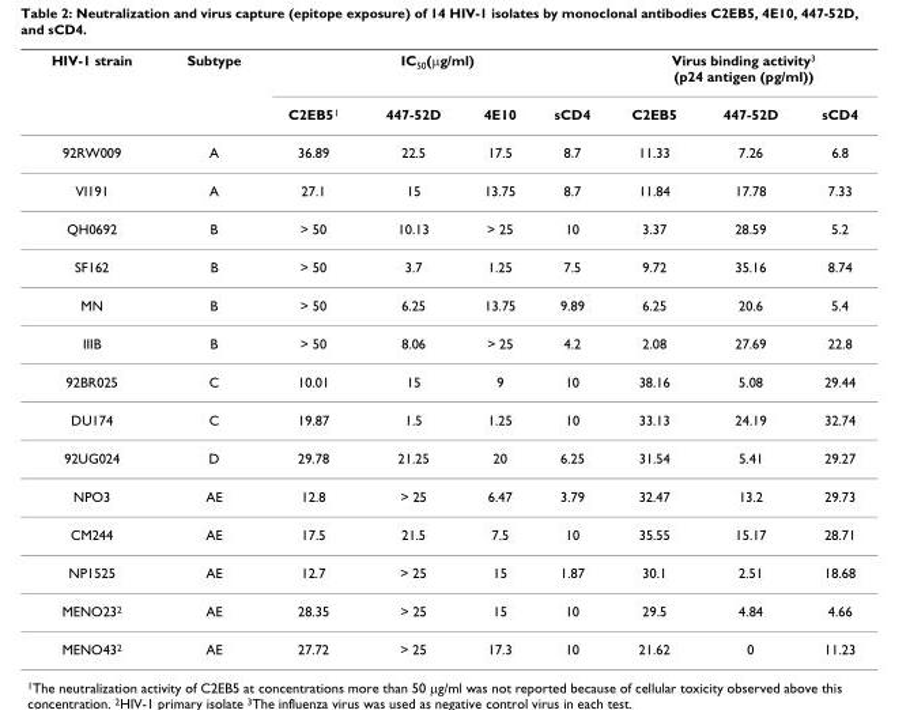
<table><thead><tr><td rowspan="2">HIV-1 strain</td><td rowspan="2">Subtype</td><td colspan="4">IC50(μg/ml)</td><td colspan="3">Virus binding activity3 (p24 antigen (pg/ml))</td></tr><tr><td>C2EB51</td><td>447-52D</td><td>4E10</td><td>sCD4</td><td>C2EB5</td><td>447-52D</td><td>sCD4</td></tr></thead><tbody><tr><td>92RW009</td><td>A</td><td>36.89</td><td>22.5</td><td>17.5</td><td>8.7</td><td>11.33</td><td>7.26</td><td>6.8</td></tr><tr><td>VI191</td><td>A</td><td>27.1</td><td>15</td><td>13.75</td><td>8.7</td><td>11.84</td><td>17.78</td><td>7.33</td></tr><tr><td>QH0692</td><td>B</td><td>&gt; 50</td><td>10.13</td><td>&gt; 25</td><td>10</td><td>3.37</td><td>28.59</td><td>5.2</td></tr><tr><td>SF162</td><td>B</td><td>&gt; 50</td><td>3.7</td><td>1.25</td><td>7.5</td><td>9.72</td><td>35.16</td><td>8.74</td></tr><tr><td>MN</td><td>B</td><td>&gt; 50</td><td>6.25</td><td>13.75</td><td>9.89</td><td>6.25</td><td>20.6</td><td>5.4</td></tr><tr><td>IIIB</td><td>B</td><td>&gt; 50</td><td>8.06</td><td>&gt; 25</td><td>4.2</td><td>2.08</td><td>27.69</td><td>22.8</td></tr><tr><td>92BR025</td><td>C</td><td>10.01</td><td>15</td><td>9</td><td>10</td><td>38.16</td><td>5.08</td><td>29.44</td></tr><tr><td>DU174</td><td>C</td><td>19.87</td><td>1.5</td><td>1.25</td><td>10</td><td>33.13</td><td>24.19</td><td>32.74</td></tr><tr><td>92UG024</td><td>D</td><td>29.78</td><td>21.25</td><td>20</td><td>6.25</td><td>31.54</td><td>5.41</td><td>29.27</td></tr><tr><td>NPO3</td><td>AE</td><td>12.8</td><td>&gt; 25</td><td>6.47</td><td>3.79</td><td>32.47</td><td>13.2</td><td>29.73</td></tr><tr><td>CM244</td><td>AE</td><td>17.5</td><td>21.5</td><td>7.5</td><td>10</td><td>35.55</td><td>15.17</td><td>28.71</td></tr><tr><td>NP1525</td><td>AE</td><td>12.7</td><td>&gt; 25</td><td>15</td><td>1.87</td><td>30.1</td><td>2.51</td><td>18.68</td></tr><tr><td>MENO232</td><td>AE</td><td>28.35</td><td>&gt; 25</td><td>15</td><td>10</td><td>29.5</td><td>4.84</td><td>4.66</td></tr><tr><td>MENO432</td><td>AE</td><td>27.72</td><td>&gt; 25</td><td>17.3</td><td>10</td><td>21.62</td><td>0</td><td>11.23</td></tr></tbody></table>